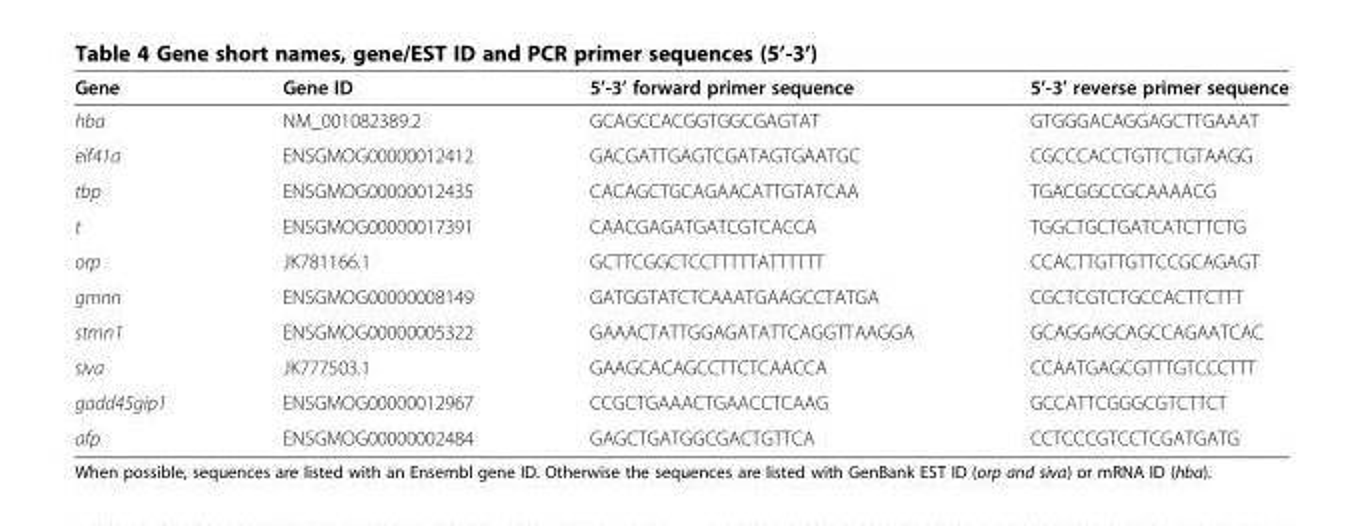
<table><thead><tr><td>Gene</td><td>Gene ID</td><td>5’-3’ forward primer sequence</td><td>5’-3’ reverse primer sequence</td></tr></thead><tbody><tr><td>hba</td><td>NM_001082389.2</td><td>GCAGCCACGGTGGCGAGTAT</td><td>GTGGGACAGGAGCTTGAAAT</td></tr><tr><td>eif41a</td><td>ENSGMOG00000012412</td><td>GACGATTGAGTCGATAGTGAATGC</td><td>CGCCCACCTGTTCTGTAAGG</td></tr><tr><td>tbp</td><td>ENSGMOG00000012435</td><td>CACAGCTGCAGAACATTGTATCAA</td><td>TGACGGCCGCAAAACG</td></tr><tr><td>t</td><td>ENSGMOG00000017391</td><td>CAACGAGATGATCGTCACCA</td><td>TGGCTGCTGATCATCTTCTG</td></tr><tr><td>orp</td><td>JK781166.1</td><td>GCTTCGGCTCCTTTTTATTTTTT</td><td>CCACTTGTTGTTCCGCAGAGT</td></tr><tr><td>gmnn</td><td>ENSGMOG00000008149</td><td>GATGGTATCTCAAATGAAGCCTATGA</td><td>CGCTCGTCTGCCACTTCTTT</td></tr><tr><td>stmn1</td><td>ENSGMOG00000005322</td><td>GAAACTATTGGAGATATTCAGGTTAAGGA</td><td>GCAGGAGCAGCCAGAATCAC</td></tr><tr><td>siva</td><td>JK777503.1</td><td>GAAGCACAGCCTTCTCAACCA</td><td>CCAATGAGCGTTTGTCCCTTT</td></tr><tr><td>gadd45gip1</td><td>ENSGMOG00000012967</td><td>CCGCTGAAACTGAACCTCAAG</td><td>GCCATTCGGGCGTCTTCT</td></tr><tr><td>afp</td><td>ENSGMOG00000002484</td><td>GAGCTGATGGCGACTGTTCA</td><td>CCTCCCGTCCTCGATGATG</td></tr></tbody></table>